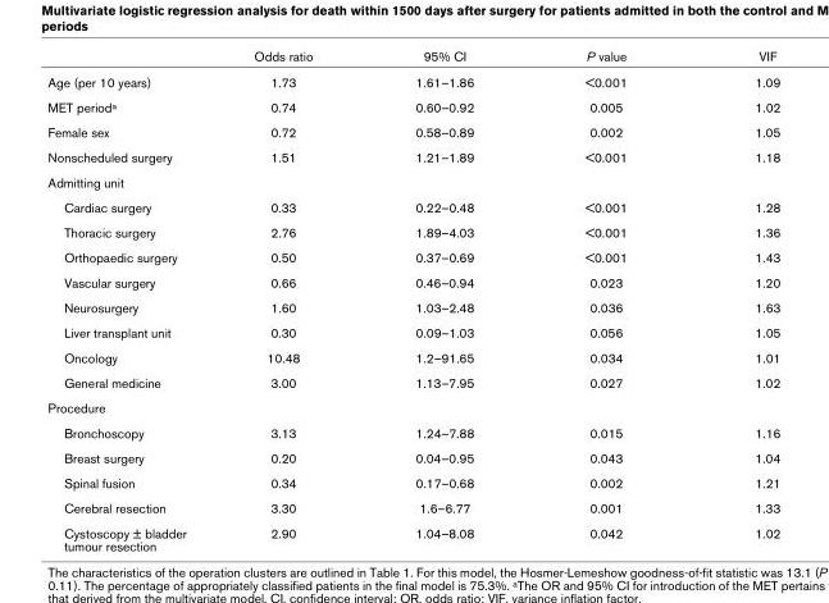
<table><thead><tr><td></td><td>Odds ratio</td><td>95% CI</td><td>P value</td><td>VIF</td></tr></thead><tbody><tr><td>Age (per 10 years)</td><td>1.73</td><td>1.61–1.86</td><td>&lt;0.001</td><td>1.09</td></tr><tr><td>MET period<sup>a</sup></td><td>0.74</td><td>0.60–0.92</td><td>0.005</td><td>1.02</td></tr><tr><td>Female sex</td><td>0.72</td><td>0.58–0.89</td><td>0.002</td><td>1.05</td></tr><tr><td>Nonscheduled surgery</td><td>1.51</td><td>1.21–1.89</td><td>&lt;0.001</td><td>1.18</td></tr><tr><td colspan="5">Admitting unit</td></tr><tr><td>Cardiac surgery</td><td>0.33</td><td>0.22–0.48</td><td>&lt;0.001</td><td>1.28</td></tr><tr><td>Thoracic surgery</td><td>2.76</td><td>1.89–4.03</td><td>&lt;0.001</td><td>1.36</td></tr><tr><td>Orthopaedic surgery</td><td>0.50</td><td>0.37–0.69</td><td>&lt;0.001</td><td>1.43</td></tr><tr><td>Vascular surgery</td><td>0.66</td><td>0.46–0.94</td><td>0.023</td><td>1.20</td></tr><tr><td>Neurosurgery</td><td>1.60</td><td>1.03–2.48</td><td>0.036</td><td>1.63</td></tr><tr><td>Liver transplant unit</td><td>0.30</td><td>0.09–1.03</td><td>0.056</td><td>1.05</td></tr><tr><td>Oncology</td><td>10.48</td><td>1.2–91.65</td><td>0.034</td><td>1.01</td></tr><tr><td>General medicine</td><td>3.00</td><td>1.13–7.95</td><td>0.027</td><td>1.02</td></tr><tr><td colspan="5">Procedure</td></tr><tr><td>Bronchoscopy</td><td>3.13</td><td>1.24–7.88</td><td>0.015</td><td>1.16</td></tr><tr><td>Breast surgery</td><td>0.20</td><td>0.04–0.95</td><td>0.043</td><td>1.04</td></tr><tr><td>Spinal fusion</td><td>0.34</td><td>0.17–0.68</td><td>0.002</td><td>1.21</td></tr><tr><td>Cerebral resection</td><td>3.30</td><td>1.6–6.77</td><td>0.001</td><td>1.33</td></tr><tr><td>Cystoscopy ± bladder tumour resection</td><td>2.90</td><td>1.04–8.08</td><td>0.042</td><td>1.02</td></tr></tbody></table>